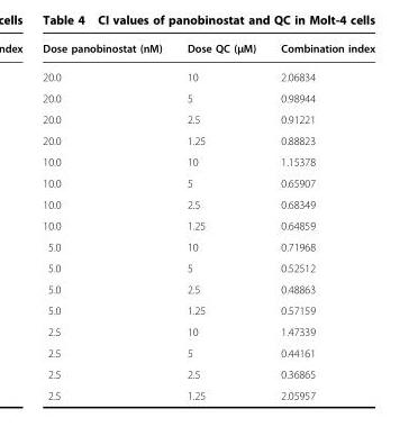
<table><thead><tr><td>Dose panobinostat (nM)</td><td>Dose QC (μM)</td><td>Combination index</td></tr></thead><tbody><tr><td>20.0</td><td>10</td><td>2.06834</td></tr><tr><td>20.0</td><td>5</td><td>0.98944</td></tr><tr><td>20.0</td><td>2.5</td><td>0.91221</td></tr><tr><td>20.0</td><td>1.25</td><td>0.88823</td></tr><tr><td>10.0</td><td>10</td><td>1.15378</td></tr><tr><td>10.0</td><td>5</td><td>0.65907</td></tr><tr><td>10.0</td><td>2.5</td><td>0.68349</td></tr><tr><td>10.0</td><td>1.25</td><td>0.64859</td></tr><tr><td>5.0</td><td>10</td><td>0.71968</td></tr><tr><td>5.0</td><td>5</td><td>0.52512</td></tr><tr><td>5.0</td><td>2.5</td><td>0.48863</td></tr><tr><td>5.0</td><td>1.25</td><td>0.57159</td></tr><tr><td>2.5</td><td>10</td><td>1.47339</td></tr><tr><td>2.5</td><td>5</td><td>0.44161</td></tr><tr><td>2.5</td><td>2.5</td><td>0.36865</td></tr><tr><td>2.5</td><td>1.25</td><td>2.05957</td></tr></tbody></table>